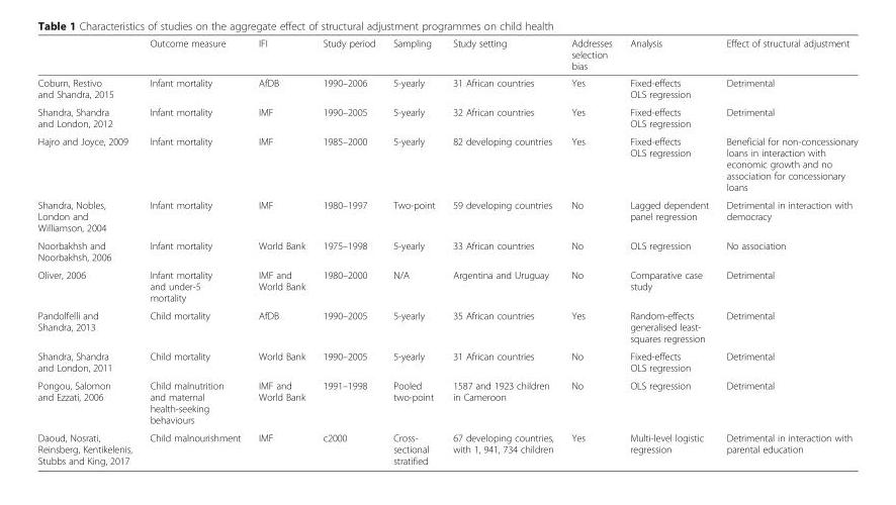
<table><thead><tr><td></td><td>Outcome measure</td><td>IFI</td><td>Study period</td><td>Sampling</td><td>Study setting</td><td>Addresses selection bias</td><td>Analysis</td><td>Effect of structural adjustment</td></tr></thead><tbody><tr><td>Coburn, Restivo and Shandra, 2015</td><td>Infant mortality</td><td>AfDB</td><td>1990–2006</td><td>5-yearly</td><td>31 African countries</td><td>Yes</td><td>Fixed-effects OLS regression</td><td>Detrimental</td></tr><tr><td>Shandra, Shandra and London, 2012</td><td>Infant mortality</td><td>IMF</td><td>1990–2005</td><td>5-yearly</td><td>32 African countries</td><td>Yes</td><td>Fixed-effects OLS regression</td><td>Detrimental</td></tr><tr><td>Hajro and Joyce, 2009</td><td>Infant mortality</td><td>IMF</td><td>1985–2000</td><td>5-yearly</td><td>82 developing countries</td><td>Yes</td><td>Fixed-effects OLS regression</td><td>Beneficial for non-concessionary loans in interaction with economic growth and no association for concessionary loans</td></tr><tr><td>Shandra, Nobles, London and Williamson, 2004</td><td>Infant mortality</td><td>IMF</td><td>1980–1997</td><td>Two-point</td><td>59 developing countries</td><td>No</td><td>Lagged dependent panel regression</td><td>Detrimental in interaction with democracy</td></tr><tr><td>Noorbakhsh and Noorbakhsh, 2006</td><td>Infant mortality</td><td>World Bank</td><td>1975–1998</td><td>5-yearly</td><td>33 African countries</td><td>No</td><td>OLS regression</td><td>No association</td></tr><tr><td>Oliver, 2006</td><td>Infant mortality and under-5 mortality</td><td>IMF and World Bank</td><td>1980–2000</td><td>N/A</td><td>Argentina and Uruguay</td><td>No</td><td>Comparative case study</td><td>Detrimental</td></tr><tr><td>Pandolfelli and Shandra, 2013</td><td>Child mortality</td><td>AfDB</td><td>1990–2005</td><td>5-yearly</td><td>35 African countries</td><td>Yes</td><td>Random-effects generalised least- squares regression</td><td>Detrimental</td></tr><tr><td>Shandra, Shandra and London, 2011</td><td>Child mortality</td><td>World Bank</td><td>1990–2005</td><td>5-yearly</td><td>31 African countries</td><td>No</td><td>Fixed-effects OLS regression</td><td>Detrimental</td></tr><tr><td>Pongou, Salomon and Ezzati, 2006</td><td>Child malnutrition and maternal health-seeking behaviours</td><td>IMF and World Bank</td><td>1991–1998</td><td>Pooled two-point</td><td>1587 and 1923 children in Cameroon</td><td>No</td><td>OLS regression</td><td>Detrimental</td></tr><tr><td>Daoud, Nosrati, Reinsberg, Kentikelenis, Stubbs and King, 2017</td><td>Child malnourishment</td><td>IMF</td><td>c2000</td><td>Cross- sectional stratified</td><td>67 developing countries, with 1, 941, 734 children</td><td>Yes</td><td>Multi-level logistic regression</td><td>Detrimental in interaction with parental education</td></tr></tbody></table>